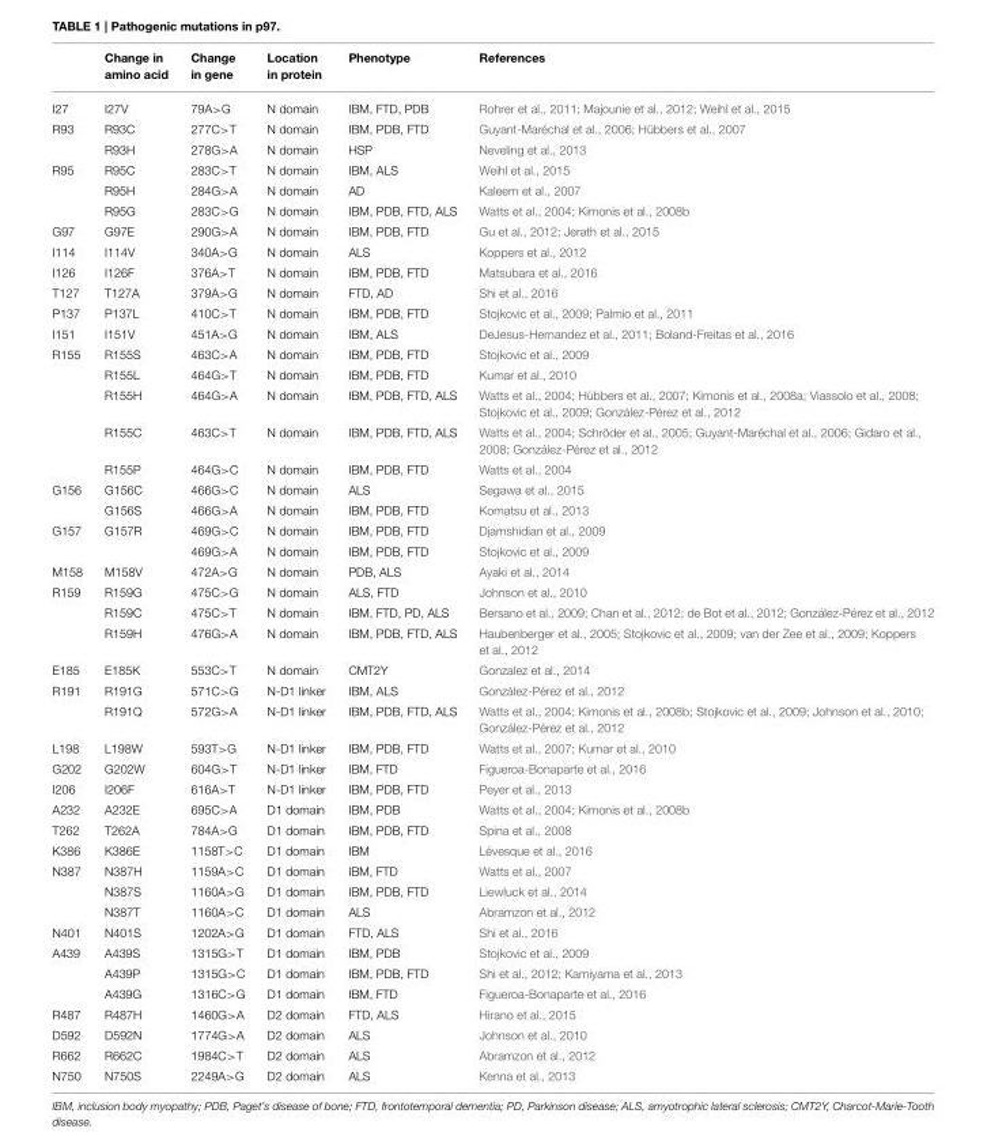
<table><thead><tr><td></td><td>Change in amino acid</td><td>Change in gene</td><td>Location in protein</td><td>Phenotype</td><td>References</td></tr></thead><tbody><tr><td>I27</td><td>I27V</td><td>79A&gt;G</td><td>N domain</td><td>IBM, FTD, PDB</td><td>Rohrer et al., 2011; Majounie et al., 2012; Weihl et al., 2015</td></tr><tr><td rowspan="2">R93</td><td>R93C</td><td>277C&gt;T</td><td>N domain</td><td>IBM, PDB, FTD</td><td>Guyant-Maréchal et al., 2006; Hübbers et al., 2007</td></tr><tr><td>R93H</td><td>278G&gt;A</td><td>N domain</td><td>HSP</td><td>Neveling et al., 2013</td></tr><tr><td rowspan="3">R95</td><td>R95C</td><td>283C&gt;T</td><td>N domain</td><td>IBM, ALS</td><td>Weihl et al., 2015</td></tr><tr><td>R95H</td><td>284G&gt;A</td><td>N domain</td><td>AD</td><td>Kaleem et al., 2007</td></tr><tr><td>R95G</td><td>283C&gt;G</td><td>N domain</td><td>IBM, PDB, FTD, ALS</td><td>Watts et al., 2004; Kimonis et al., 2008b</td></tr><tr><td>G97</td><td>G97E</td><td>290G&gt;A</td><td>N domain</td><td>IBM, PDB, FTD</td><td>Gu et al., 2012; Jerath et al., 2015</td></tr><tr><td>I114</td><td>I114V</td><td>340A&gt;G</td><td>N domain</td><td>ALS</td><td>Koppers et al., 2012</td></tr><tr><td>I126</td><td>I126F</td><td>376A&gt;T</td><td>N domain</td><td>IBM, PDB, FTD</td><td>Matsubara et al., 2016</td></tr><tr><td>T127</td><td>T127A</td><td>379A&gt;G</td><td>N domain</td><td>FTD, AD</td><td>Shi et al., 2016</td></tr><tr><td>P137</td><td>P137L</td><td>410C&gt;T</td><td>N domain</td><td>IBM, PDB, FTD</td><td>Stojkovic et al., 2009; Palmio et al., 2011</td></tr><tr><td>I151</td><td>I151V</td><td>451A&gt;G</td><td>N domain</td><td>IBM, ALS</td><td>DeJesus-Hernandez et al., 2011; Boland-Freitas et al., 2016</td></tr><tr><td rowspan="5">R155</td><td>R155S</td><td>463C&gt;A</td><td>N domain</td><td>IBM, PDB, FTD</td><td>Stojkovic et al., 2009</td></tr><tr><td>R155L</td><td>464G&gt;T</td><td>N domain</td><td>IBM, PDB, FTD</td><td>Kumar et al., 2010</td></tr><tr><td>R155H</td><td>464G&gt;A</td><td>N domain</td><td>IBM, PDB, FTD, ALS</td><td>Watts et al., 2004; Hübbers et al., 2007; Kimonis et al., 2008a; Viassolo et al., 2008; Stojkovic et al., 2009; González-Pérez et al., 2012</td></tr><tr><td>R155C</td><td>463C&gt;T</td><td>N domain</td><td>IBM, PDB, FTD, ALS</td><td>Watts et al., 2004; Schröder et al., 2005; Guyant-Maréchal et al., 2006; Gidaro et al., 2008; González-Pérez et al., 2012</td></tr><tr><td>R155P</td><td>464G&gt;C</td><td>N domain</td><td>IBM, PDB, FTD</td><td>Watts et al., 2004</td></tr><tr><td rowspan="2">G156</td><td>G156C</td><td>466G&gt;C</td><td>N domain</td><td>ALS</td><td>Segawa et al., 2015</td></tr><tr><td>G156S</td><td>466G&gt;A</td><td>N domain</td><td>IBM, PDB, FTD</td><td>Komatsu et al., 2013</td></tr><tr><td rowspan="2">G157</td><td>G157R</td><td>469G&gt;C</td><td>N domain</td><td>IBM, PDB, FTD</td><td>Djamshidian et al., 2009</td></tr><tr><td></td><td>469G&gt;A</td><td>N domain</td><td>IBM, PDB, FTD</td><td>Stojkovic et al., 2009</td></tr><tr><td>M158</td><td>M158V</td><td>472A&gt;G</td><td>N domain</td><td>PDB, ALS</td><td>Ayaki et al., 2014</td></tr><tr><td rowspan="3">R159</td><td>R159G</td><td>475C&gt;G</td><td>N domain</td><td>ALS, FTD</td><td>Johnson et al., 2010</td></tr><tr><td>R159C</td><td>475C&gt;T</td><td>N domain</td><td>IBM, FTD, PD, ALS</td><td>Bersano et al., 2009; Chan et al., 2012; de Bot et al., 2012; González-Pérez et al., 2012</td></tr><tr><td>R159H</td><td>476G&gt;A</td><td>N domain</td><td>IBM, PDB, FTD, ALS</td><td>Haubenberger et al., 2005; Stojkovic et al., 2009; van der Zee et al., 2009; Koppers et al., 2012</td></tr><tr><td>E185</td><td>E185K</td><td>553C&gt;T</td><td>N domain</td><td>CMT2Y</td><td>Gonzalez et al., 2014</td></tr><tr><td rowspan="2">R191</td><td>R191G</td><td>571C&gt;G</td><td>N-D1 linker</td><td>IBM, ALS</td><td>González-Pérez et al., 2012</td></tr><tr><td>R191Q</td><td>572G&gt;A</td><td>N-D1 linker</td><td>IBM, PDB, FTD, ALS</td><td>Watts et al., 2004; Kimonis et al., 2008b; Stojkovic et al., 2009; Johnson et al., 2010; González-Pérez et al., 2012</td></tr><tr><td>L198</td><td>L198W</td><td>593T&gt;G</td><td>N-D1 linker</td><td>IBM, PDB, FTD</td><td>Watts et al., 2007; Kumar et al., 2010</td></tr><tr><td>G202</td><td>G202W</td><td>604G&gt;T</td><td>N-D1 linker</td><td>IBM, FTD</td><td>Figueroa-Bonaparte et al., 2016</td></tr><tr><td>I206</td><td>I206F</td><td>616A&gt;T</td><td>N-D1 linker</td><td>IBM, PDB, FTD</td><td>Peyer et al., 2013</td></tr><tr><td>A232</td><td>A232E</td><td>695C&gt;A</td><td>D1 domain</td><td>IBM, PDB</td><td>Watts et al., 2004; Kimonis et al., 2008b</td></tr><tr><td>T262</td><td>T262A</td><td>784A&gt;G</td><td>D1 domain</td><td>IBM, PDB, FTD</td><td>Spina et al., 2008</td></tr><tr><td>K386</td><td>K386E</td><td>1158T&gt;C</td><td>D1 domain</td><td>IBM</td><td>Lévesque et al., 2016</td></tr><tr><td rowspan="3">N387</td><td>N387H</td><td>1159A&gt;C</td><td>D1 domain</td><td>IBM, FTD</td><td>Watts et al., 2007</td></tr><tr><td>N387S</td><td>1160A&gt;G</td><td>D1 domain</td><td>IBM, PDB, FTD</td><td>Liewluck et al., 2014</td></tr><tr><td>N387T</td><td>1160A&gt;C</td><td>D1 domain</td><td>ALS</td><td>Abramzon et al., 2012</td></tr><tr><td>N401</td><td>N401S</td><td>1202A&gt;G</td><td>D1 domain</td><td>FTD, ALS</td><td>Shi et al., 2016</td></tr><tr><td rowspan="3">A439</td><td>A439S</td><td>1315G&gt;T</td><td>D1 domain</td><td>IBM, PDB</td><td>Stojkovic et al., 2009</td></tr><tr><td>A439P</td><td>1315G&gt;C</td><td>D1 domain</td><td>IBM, PDB, FTD</td><td>Shi et al., 2012; Kamiyama et al., 2013</td></tr><tr><td>A439G</td><td>1316C&gt;G</td><td>D1 domain</td><td>IBM, FTD</td><td>Figueroa-Bonaparte et al., 2016</td></tr><tr><td>R487</td><td>R487H</td><td>1460G&gt;A</td><td>D2 domain</td><td>FTD, ALS</td><td>Hirano et al., 2015</td></tr><tr><td>D592</td><td>D592N</td><td>1774G&gt;A</td><td>D2 domain</td><td>ALS</td><td>Johnson et al., 2010</td></tr><tr><td>R662</td><td>R662C</td><td>1984C&gt;T</td><td>D2 domain</td><td>ALS</td><td>Abramzon et al., 2012</td></tr><tr><td>N750</td><td>N750S</td><td>2249A&gt;G</td><td>D2 domain</td><td>ALS</td><td>Kenna et al., 2013</td></tr></tbody></table>